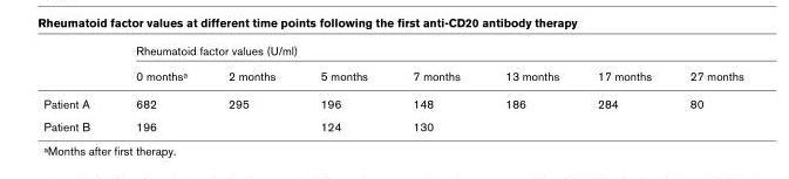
<table><thead><tr><td rowspan="2"></td><td colspan="7">Rheumatoid factor values (U/ml)</td></tr><tr><td>0 monthsa</td><td>2 months</td><td>5 months</td><td>7 months</td><td>13 months</td><td>17 months</td><td>27 months</td></tr></thead><tbody><tr><td>Patient A</td><td>682</td><td>295</td><td>196</td><td>148</td><td>186</td><td>284</td><td>80</td></tr><tr><td>Patient B</td><td>196</td><td></td><td>124</td><td>130</td><td></td><td></td><td></td></tr></tbody></table>